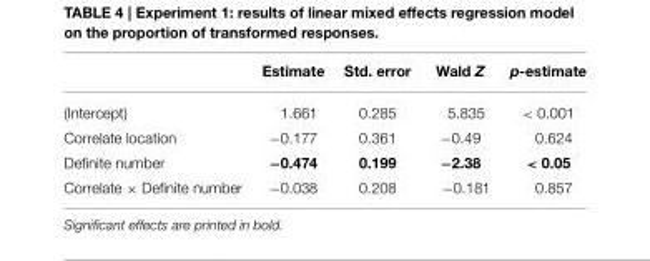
<table><thead><tr><td></td><td>Estimate</td><td>Std. error</td><td>Wald Z</td><td>p-estimate</td></tr></thead><tbody><tr><td>(Intercept)</td><td>1.661</td><td>0.285</td><td>5.835</td><td>&lt; 0.001</td></tr><tr><td>Correlate location</td><td>−0.177</td><td>0.361</td><td>−0.49</td><td>0.624</td></tr><tr><td>Definite number</td><td>−0.474</td><td>0.199</td><td>−2.38</td><td>&lt; 0.05</td></tr><tr><td>Correlate × Definite number</td><td>−0.038</td><td>0.208</td><td>−0.181</td><td>0.857</td></tr></tbody></table>